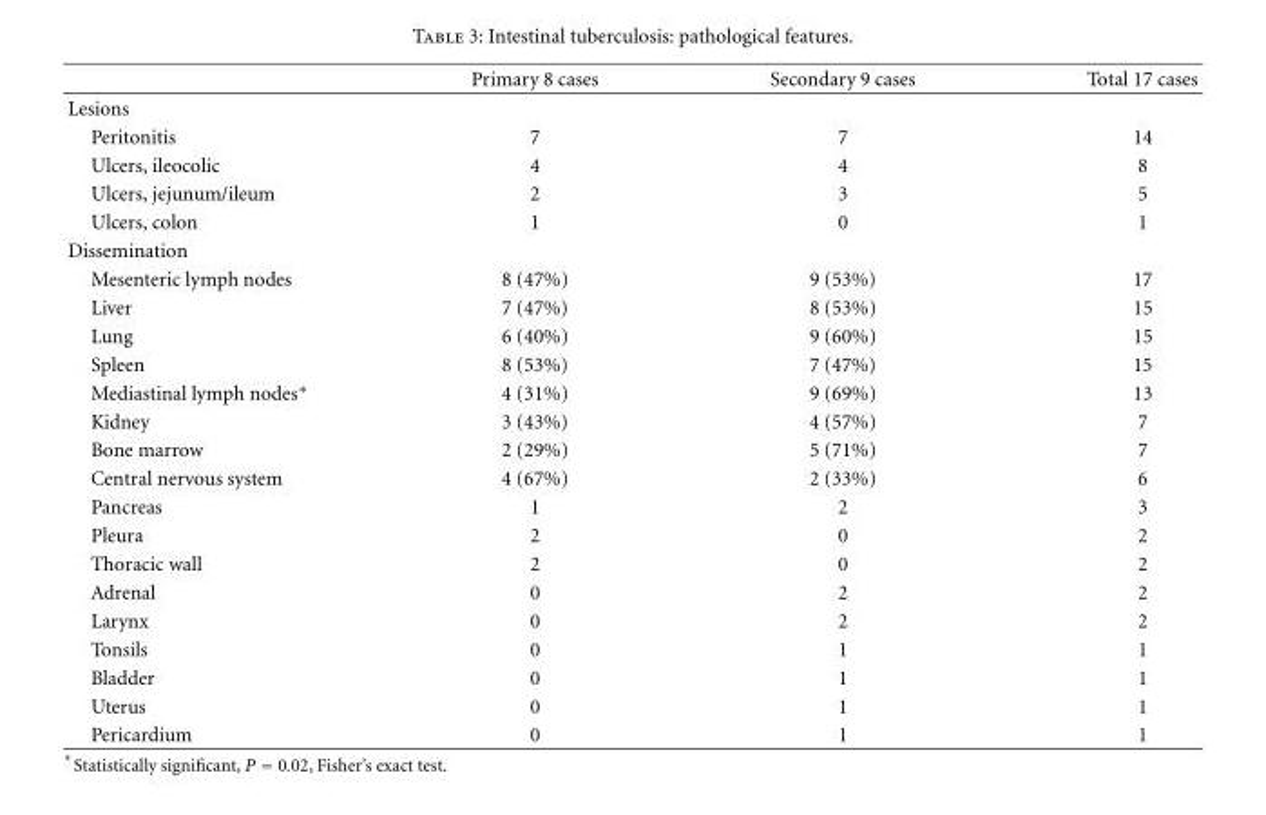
<table><thead><tr><td></td><td>Primary 8 cases</td><td>Secondary 9 cases</td><td>Total 17 cases</td></tr></thead><tbody><tr><td colspan="4">Lesions</td></tr><tr><td>Peritonitis</td><td>7</td><td>7</td><td>14</td></tr><tr><td>Ulcers, ileocolic</td><td>4</td><td>4</td><td>8</td></tr><tr><td>Ulcers, jejunum/ileum</td><td>2</td><td>3</td><td>5</td></tr><tr><td>Ulcers, colon</td><td>1</td><td>0</td><td>1</td></tr><tr><td colspan="4">Dissemination</td></tr><tr><td>Mesenteric lymph nodes</td><td>8 (47%)</td><td>9 (53%)</td><td>17</td></tr><tr><td>Liver</td><td>7 (47%)</td><td>8 (53%)</td><td>15</td></tr><tr><td>Lung</td><td>6 (40%)</td><td>9 (60%)</td><td>15</td></tr><tr><td>Spleen</td><td>8 (53%)</td><td>7 (47%)</td><td>15</td></tr><tr><td>Mediastinal lymph nodes∗</td><td>4 (31%)</td><td>9 (69%)</td><td>13</td></tr><tr><td>Kidney</td><td>3 (43%)</td><td>4 (57%)</td><td>7</td></tr><tr><td>Bone marrow</td><td>2 (29%)</td><td>5 (71%)</td><td>7</td></tr><tr><td>Central nervous system</td><td>4 (67%)</td><td>2 (33%)</td><td>6</td></tr><tr><td>Pancreas</td><td>1</td><td>2</td><td>3</td></tr><tr><td>Pleura</td><td>2</td><td>0</td><td>2</td></tr><tr><td>Thoracic wall</td><td>2</td><td>0</td><td>2</td></tr><tr><td>Adrenal</td><td>0</td><td>2</td><td>2</td></tr><tr><td>Larynx</td><td>0</td><td>2</td><td>2</td></tr><tr><td>Tonsils</td><td>0</td><td>1</td><td>1</td></tr><tr><td>Bladder</td><td>0</td><td>1</td><td>1</td></tr><tr><td>Uterus</td><td>0</td><td>1</td><td>1</td></tr><tr><td>Pericardium</td><td>0</td><td>1</td><td>1</td></tr></tbody></table>